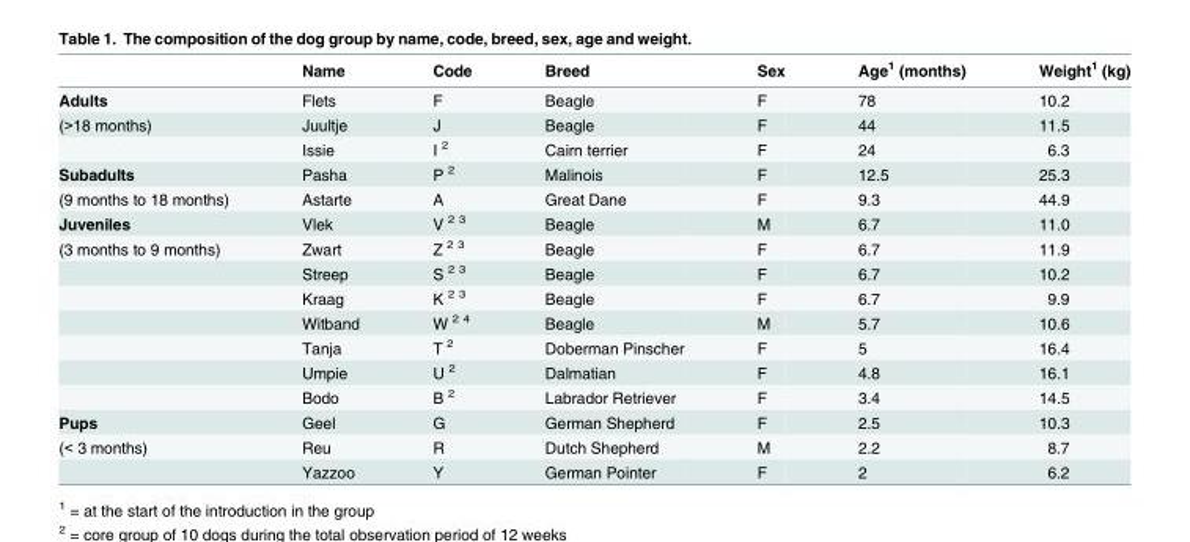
<table><thead><tr><td></td><td>Name</td><td>Code</td><td>Breed</td><td>Sex</td><td>Age<sup>1</sup> (months)</td><td>Weight<sup>1</sup> (kg)</td></tr></thead><tbody><tr><td>Adults</td><td>Flets</td><td>F</td><td>Beagle</td><td>F</td><td>78</td><td>10.2</td></tr><tr><td rowspan="2">(&gt;18 months)</td><td>Juultje</td><td>J</td><td>Beagle</td><td>F</td><td>44</td><td>11.5</td></tr><tr><td>Issie</td><td>I <sup>2</sup></td><td>Cairn terrier</td><td>F</td><td>24</td><td>6.3</td></tr><tr><td>Subadults</td><td>Pasha</td><td>P <sup>2</sup></td><td>Malinois</td><td>F</td><td>12.5</td><td>25.3</td></tr><tr><td>(9 months to 18 months)</td><td>Astarte</td><td>A</td><td>Great Dane</td><td>F</td><td>9.3</td><td>44.9</td></tr><tr><td>Juveniles</td><td>Vlek</td><td>V <sup>2 3</sup></td><td>Beagle</td><td>M</td><td>6.7</td><td>11.0</td></tr><tr><td rowspan="7">(3 months to 9 months)</td><td>Zwart</td><td>Z <sup>2 3</sup></td><td>Beagle</td><td>F</td><td>6.7</td><td>11.9</td></tr><tr><td>Streep</td><td>S <sup>2 3</sup></td><td>Beagle</td><td>F</td><td>6.7</td><td>10.2</td></tr><tr><td>Kraag</td><td>K <sup>2 3</sup></td><td>Beagle</td><td>F</td><td>6.7</td><td>9.9</td></tr><tr><td>Witband</td><td>W <sup>2 4</sup></td><td>Beagle</td><td>M</td><td>5.7</td><td>10.6</td></tr><tr><td>Tanja</td><td>T <sup>2</sup></td><td>Doberman Pinscher</td><td>F</td><td>5</td><td>16.4</td></tr><tr><td>Umpie</td><td>U <sup>2</sup></td><td>Dalmatian</td><td>F</td><td>4.8</td><td>16.1</td></tr><tr><td>Bodo</td><td>B <sup>2</sup></td><td>Labrador Retriever</td><td>F</td><td>3.4</td><td>14.5</td></tr><tr><td>Pups</td><td>Geel</td><td>G</td><td>German Shepherd</td><td>F</td><td>2.5</td><td>10.3</td></tr><tr><td rowspan="2">(&lt; 3 months)</td><td>Reu</td><td>R</td><td>Dutch Shepherd</td><td>M</td><td>2.2</td><td>8.7</td></tr><tr><td>Yazzoo</td><td>Y</td><td>German Pointer</td><td>F</td><td>2</td><td>6.2</td></tr></tbody></table>